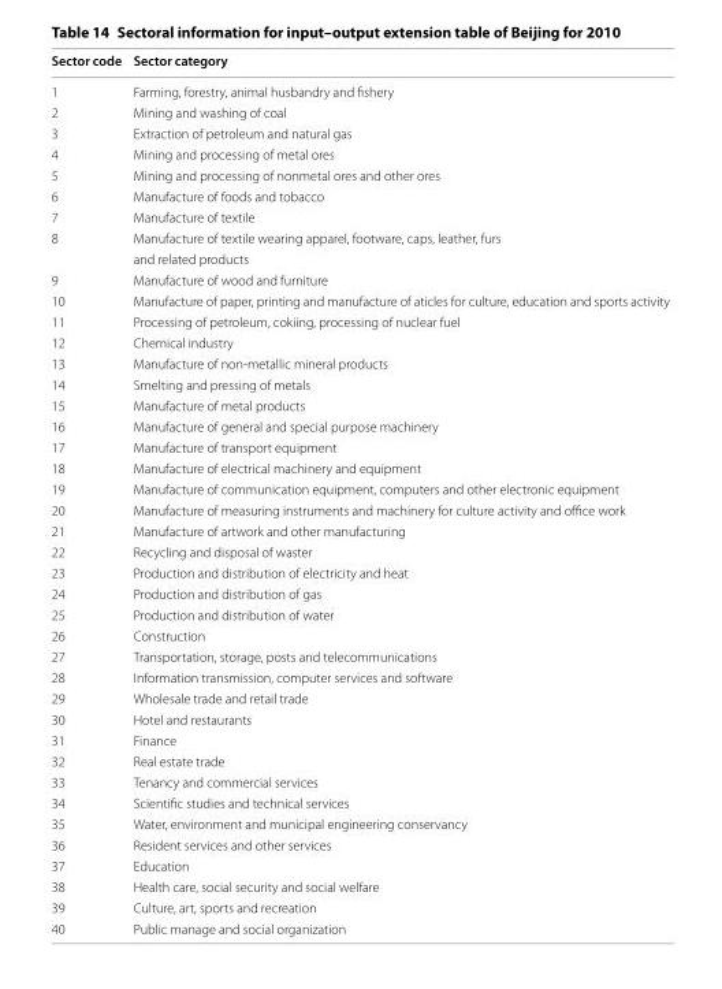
<table><thead><tr><td>Sector code</td><td>Sector category</td></tr></thead><tbody><tr><td>1</td><td>Farming, forestry, animal husbandry and fishery</td></tr><tr><td>2</td><td>Mining and washing of coal</td></tr><tr><td>3</td><td>Extraction of petroleum and natural gas</td></tr><tr><td>4</td><td>Mining and processing of metal ores</td></tr><tr><td>5</td><td>Mining and processing of nonmetal ores and other ores</td></tr><tr><td>6</td><td>Manufacture of foods and tobacco</td></tr><tr><td>7</td><td>Manufacture of textile</td></tr><tr><td rowspan="2">8</td><td>Manufacture of textile wearing apparel, footware, caps, leather, furs</td></tr><tr><td>and related products</td></tr><tr><td>9</td><td>Manufacture of wood and furniture</td></tr><tr><td>10</td><td>Manufacture of paper, printing and manufacture of aticles for culture, education and sports activity</td></tr><tr><td>11</td><td>Processing of petroleum, cokiing, processing of nuclear fuel</td></tr><tr><td>12</td><td>Chemical industry</td></tr><tr><td>13</td><td>Manufacture of non-metallic mineral products</td></tr><tr><td>14</td><td>Smelting and pressing of metals</td></tr><tr><td>15</td><td>Manufacture of metal products</td></tr><tr><td>16</td><td>Manufacture of general and special purpose machinery</td></tr><tr><td>17</td><td>Manufacture of transport equipment</td></tr><tr><td>18</td><td>Manufacture of electrical machinery and equipment</td></tr><tr><td>19</td><td>Manufacture of communication equipment, computers and other electronic equipment</td></tr><tr><td>20</td><td>Manufacture of measuring instruments and machinery for culture activity and office work</td></tr><tr><td>21</td><td>Manufacture of artwork and other manufacturing</td></tr><tr><td>22</td><td>Recycling and disposal of waster</td></tr><tr><td>23</td><td>Production and distribution of electricity and heat</td></tr><tr><td>24</td><td>Production and distribution of gas</td></tr><tr><td>25</td><td>Production and distribution of water</td></tr><tr><td>26</td><td>Construction</td></tr><tr><td>27</td><td>Transportation, storage, posts and telecommunications</td></tr><tr><td>28</td><td>Information transmission, computer services and software</td></tr><tr><td>29</td><td>Wholesale trade and retail trade</td></tr><tr><td>30</td><td>Hotel and restaurants</td></tr><tr><td>31</td><td>Finance</td></tr><tr><td>32</td><td>Real estate trade</td></tr><tr><td>33</td><td>Tenancy and commercial services</td></tr><tr><td>34</td><td>Scientific studies and technical services</td></tr><tr><td>35</td><td>Water, environment and municipal engineering conservancy</td></tr><tr><td>36</td><td>Resident services and other services</td></tr><tr><td>37</td><td>Education</td></tr><tr><td>38</td><td>Health care, social security and social welfare</td></tr><tr><td>39</td><td>Culture, art, sports and recreation</td></tr><tr><td>40</td><td>Public manage and social organization</td></tr></tbody></table>